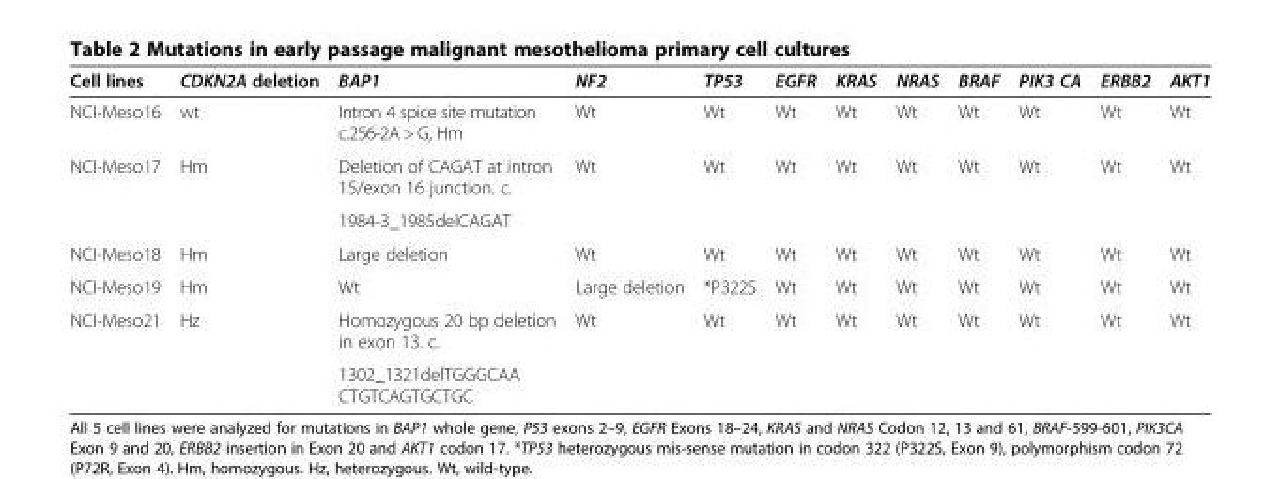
<table><thead><tr><td>Cell lines</td><td>CDKN2A deletion</td><td>BAP1</td><td>NF2</td><td>TP53</td><td>EGFR</td><td>KRAS</td><td>NRAS</td><td>BRAF</td><td>PIK3 CA</td><td>ERBB2</td><td>AKT1</td></tr></thead><tbody><tr><td>NCI-Meso16</td><td>wt</td><td>Intron 4 spice site mutation c.256-2A &gt; G, Hm</td><td>Wt</td><td>Wt</td><td>Wt</td><td>Wt</td><td>Wt</td><td>Wt</td><td>Wt</td><td>Wt</td><td>Wt</td></tr><tr><td rowspan="2">NCI-Meso17</td><td rowspan="2">Hm</td><td>Deletion of CAGAT at intron 15/exon 16 junction. c.</td><td rowspan="2">Wt</td><td rowspan="2">Wt</td><td rowspan="2">Wt</td><td rowspan="2">Wt</td><td rowspan="2">Wt</td><td rowspan="2">Wt</td><td rowspan="2">Wt</td><td rowspan="2">Wt</td><td rowspan="2">Wt</td></tr><tr><td>1984-3_1985delCAGAT</td></tr><tr><td>NCI-Meso18</td><td>Hm</td><td>Large deletion</td><td>Wt</td><td>Wt</td><td>Wt</td><td>Wt</td><td>Wt</td><td>Wt</td><td>Wt</td><td>Wt</td><td>Wt</td></tr><tr><td>NCI-Meso19</td><td>Hm</td><td>Wt</td><td>Large deletion</td><td>*P322S</td><td>Wt</td><td>Wt</td><td>Wt</td><td>Wt</td><td>Wt</td><td>Wt</td><td>Wt</td></tr><tr><td rowspan="2">NCI-Meso21</td><td rowspan="2">Hz</td><td>Homozygous 20 bp deletion in exon 13. c.</td><td rowspan="2">Wt</td><td rowspan="2">Wt</td><td rowspan="2">Wt</td><td rowspan="2">Wt</td><td rowspan="2">Wt</td><td rowspan="2">Wt</td><td rowspan="2">Wt</td><td rowspan="2">Wt</td><td rowspan="2">Wt</td></tr><tr><td>1302_1321delTGGGCAA CTGTCAGTGCTGC</td></tr></tbody></table>